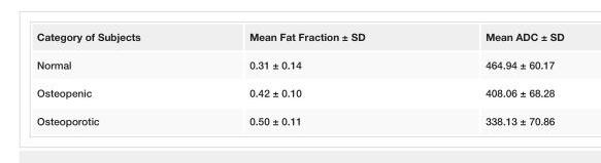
<table><tbody><tr><td>Category of Subjects</td><td>Mean Fat Fraction ± SD</td><td>Mean ADC ± SD</td></tr><tr><td>Normal</td><td>0.31 ± 0.14</td><td>464.94 ± 60.17</td></tr><tr><td>Osteopenic</td><td>0.42 ± 0.10</td><td>408.06 ± 68.28</td></tr><tr><td>Osteoporotic</td><td>0.50 ± 0.11</td><td>338.13 ± 70.86</td></tr></tbody></table>